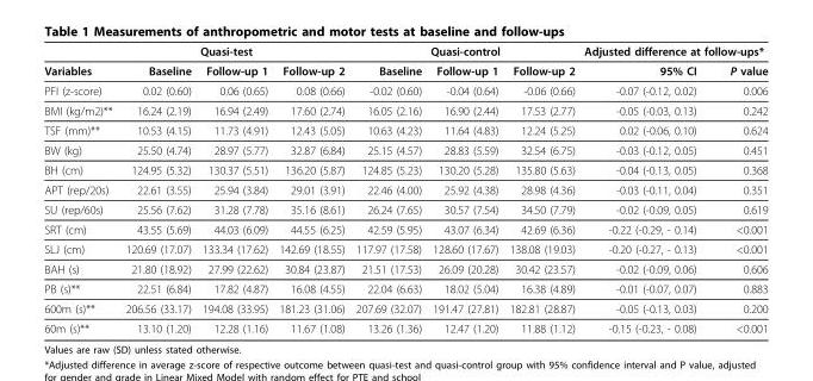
<table><thead><tr><td rowspan="2">Variables</td><td rowspan="2">Baseline</td><td colspan="3">Quasi-test</td><td colspan="2">Quasi-control</td><td colspan="2">Adjusted difference at follow-ups*</td></tr><tr><td>Follow-up 1</td><td>Follow-up 2</td><td>Baseline</td><td>Follow-up 1</td><td>Follow-up 2</td><td>95% CI</td><td>P value</td></tr></thead><tbody><tr><td>PFI (z-score)</td><td>0.02 (0.60)</td><td>0.06 (0.65)</td><td>0.08 (0.66)</td><td>-0.02 (0.60)</td><td>-0.04 (0.64)</td><td>-0.06 (0.66)</td><td>-0.07 (-0.12, 0.02)</td><td>0.006</td></tr><tr><td>BMI (kg/m2)**</td><td>16.24 (2.19)</td><td>16.94 (2.49)</td><td>17.60 (2.74)</td><td>16.05 (2.16)</td><td>16.90 (2.44)</td><td>17.53 (2.77)</td><td>-0.05 (-0.03, 0.13)</td><td>0.242</td></tr><tr><td>TSF (mm)**</td><td>10.53 (4.15)</td><td>11.73 (4.91)</td><td>12.43 (5.05)</td><td>10.63 (4.23)</td><td>11.64 (4.83)</td><td>12.24 (5.25)</td><td>0.02 (-0.06, 0.10)</td><td>0.624</td></tr><tr><td>BW (kg)</td><td>25.50 (4.74)</td><td>28.97 (5.77)</td><td>32.87 (6.84)</td><td>25.15 (4.57)</td><td>28.83 (5.59)</td><td>32.54 (6.75)</td><td>-0.03 (-0.12, 0.05)</td><td>0.451</td></tr><tr><td>BH (cm)</td><td>124.95 (5.32)</td><td>130.37 (5.51)</td><td>136.20 (5.87)</td><td>124.85 (5.23)</td><td>130.20 (5.28)</td><td>135.80 (5.63)</td><td>-0.04 (-0.13, 0.05)</td><td>0.368</td></tr><tr><td>APT (rep/20s)</td><td>22.61 (3.55)</td><td>25.94 (3.84)</td><td>29.01 (3.91)</td><td>22.46 (4.00)</td><td>25.92 (4.38)</td><td>28.98 (4.36)</td><td>-0.03 (-0.11, 0.04)</td><td>0.351</td></tr><tr><td>SU (rep/60s)</td><td>25.56 (7.62)</td><td>31.28 (7.78)</td><td>35.16 (8.61)</td><td>26.24 (7.65)</td><td>30.57 (7.54)</td><td>34.50 (7.79)</td><td>-0.02 (-0.09, 0.05)</td><td>0.619</td></tr><tr><td>SRT (cm)</td><td>43.55 (5.69)</td><td>44.03 (6.09)</td><td>44.55 (6.25)</td><td>42.59 (5.95)</td><td>43.07 (6.34)</td><td>42.69 (6.36)</td><td>-0.22 (-0.29, - 0.14)</td><td>&lt;0.001</td></tr><tr><td>SLJ (cm)</td><td>120.69 (17.07)</td><td>133.34 (17.62)</td><td>142.69 (18.55)</td><td>117.97 (17.58)</td><td>128.60 (17.67)</td><td>138.08 (19.03)</td><td>-0.20 (-0.27, - 0.13)</td><td>&lt;0.001</td></tr><tr><td>BAH (s)</td><td>21.80 (18.92)</td><td>27.99 (22.62)</td><td>30.84 (23.87)</td><td>21.51 (17.53)</td><td>26.09 (20.28)</td><td>30.42 (23.57)</td><td>-0.02 (-0.09, 0.06)</td><td>0.606</td></tr><tr><td>PB (s)**</td><td>22.51 (6.84)</td><td>17.82 (4.87)</td><td>16.08 (4.55)</td><td>22.04 (6.63)</td><td>18.02 (5.04)</td><td>16.38 (4.89)</td><td>-0.01 (-0.07, 0.07)</td><td>0.883</td></tr><tr><td>600m (s)**</td><td>206.56 (33.17)</td><td>194.08 (33.95)</td><td>181.23 (31.06)</td><td>207.69 (32.07)</td><td>191.47 (27.81)</td><td>182.81 (28.87)</td><td>-0.05 (-0.13, 0.03)</td><td>0.200</td></tr><tr><td>60m (s)**</td><td>13.10 (1.20)</td><td>12.28 (1.16)</td><td>11.67 (1.08)</td><td>13.26 (1.36)</td><td>12.47 (1.20)</td><td>11.88 (1.12)</td><td>-0.15 (-0.23, - 0.08)</td><td>&lt;0.001</td></tr></tbody></table>